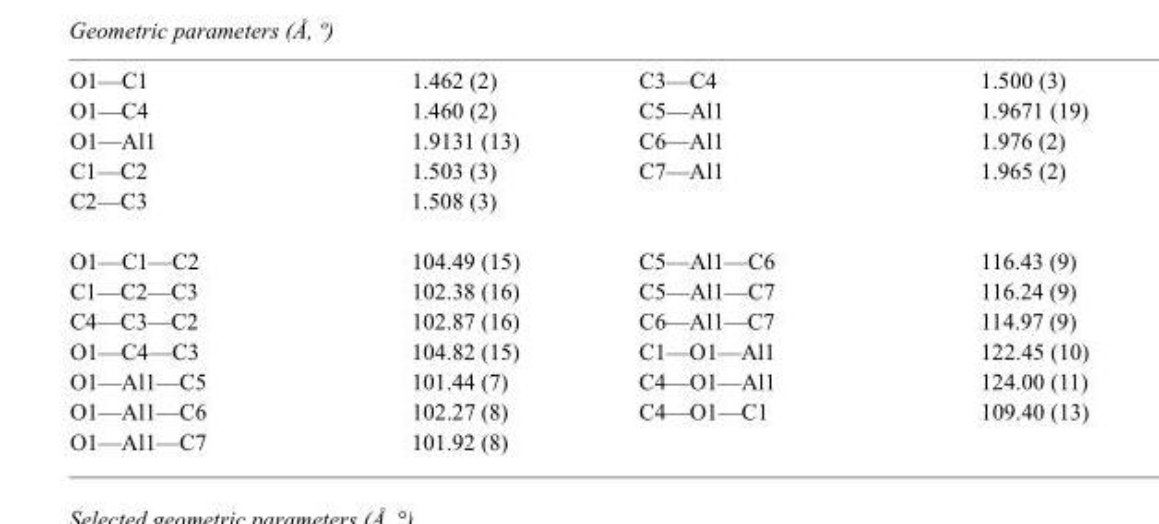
<table><tbody><tr><td>O1—C1</td><td>1.462 (2)</td><td>C3—C4</td><td>1.500 (3)</td></tr><tr><td>O1—C4</td><td>1.460 (2)</td><td>C5—Al1</td><td>1.9671 (19)</td></tr><tr><td>O1—Al1</td><td>1.9131 (13)</td><td>C6—Al1</td><td>1.976 (2)</td></tr><tr><td>C1—C2</td><td>1.503 (3)</td><td>C7—Al1</td><td>1.965 (2)</td></tr><tr><td>C2—C3</td><td>1.508 (3)</td><td></td><td></td></tr><tr><td>O1—C1—C2</td><td>104.49 (15)</td><td>C5—Al1—C6</td><td>116.43 (9)</td></tr><tr><td>C1—C2—C3</td><td>102.38 (16)</td><td>C5—Al1—C7</td><td>116.24 (9)</td></tr><tr><td>C4—C3—C2</td><td>102.87 (16)</td><td>C6—Al1—C7</td><td>114.97 (9)</td></tr><tr><td>O1—C4—C3</td><td>104.82 (15)</td><td>C1—O1—Al1</td><td>122.45 (10)</td></tr><tr><td>O1—Al1—C5</td><td>101.44 (7)</td><td>C4—O1—Al1</td><td>124.00 (11)</td></tr><tr><td>O1—Al1—C6</td><td>102.27 (8)</td><td>C4—O1—C1</td><td>109.40 (13)</td></tr><tr><td>O1—Al1—C7</td><td>101.92 (8)</td><td></td><td></td></tr></tbody></table>